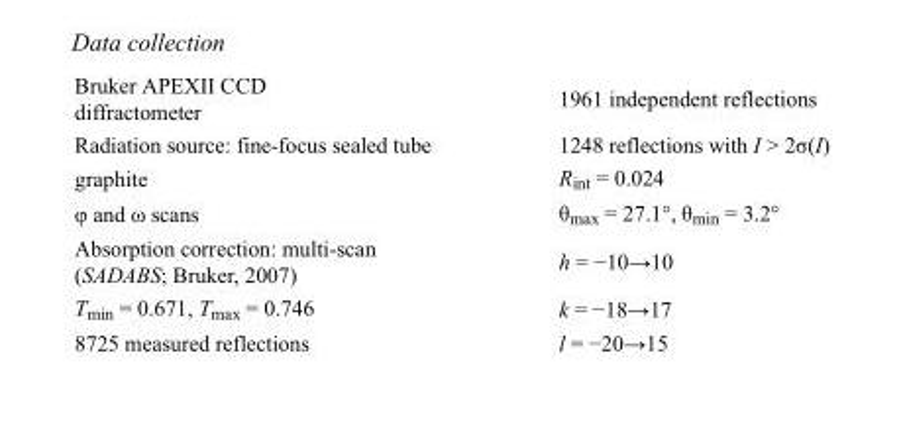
<table><tbody><tr><td>Bruker APEXII CCD diffractometer</td><td>1961 independent reflections</td></tr><tr><td>Radiation source: fine-focus sealed tube</td><td>1248 reflections with I &gt; 2σ(I)</td></tr><tr><td>graphite</td><td>R<sub>int</sub> = 0.024</td></tr><tr><td>φ and ω scans</td><td>θ<sub>max</sub> = 27.1°, θ<sub>min</sub> = 3.2°</td></tr><tr><td>Absorption correction: multi-scan (SADABS; Bruker, 2007)</td><td>h = −10→10</td></tr><tr><td>T<sub>min</sub> = 0.671, T<sub>max</sub> = 0.746</td><td>k = −18→17</td></tr><tr><td>8725 measured reflections</td><td>l = −20→15</td></tr></tbody></table>